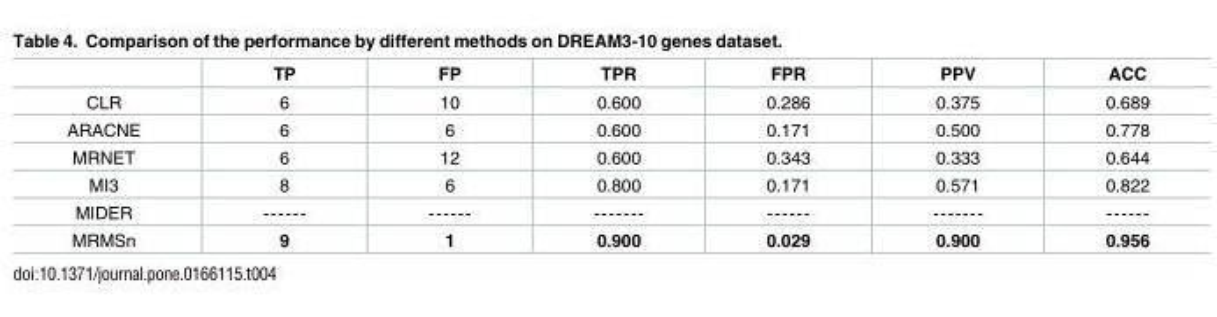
<table><thead><tr><td></td><td>TP</td><td>FP</td><td>TPR</td><td>FPR</td><td>PPV</td><td>ACC</td></tr></thead><tbody><tr><td>CLR</td><td>6</td><td>10</td><td>0.600</td><td>0.286</td><td>0.375</td><td>0.689</td></tr><tr><td>ARACNE</td><td>6</td><td>6</td><td>0.600</td><td>0.171</td><td>0.500</td><td>0.778</td></tr><tr><td>MRNET</td><td>6</td><td>12</td><td>0.600</td><td>0.343</td><td>0.333</td><td>0.644</td></tr><tr><td>MI3</td><td>8</td><td>6</td><td>0.800</td><td>0.171</td><td>0.571</td><td>0.822</td></tr><tr><td>MIDER</td><td>------</td><td>------</td><td>-------</td><td>------</td><td>-------</td><td>------</td></tr><tr><td>MRMSn</td><td>9</td><td>1</td><td>0.900</td><td>0.029</td><td>0.900</td><td>0.956</td></tr></tbody></table>